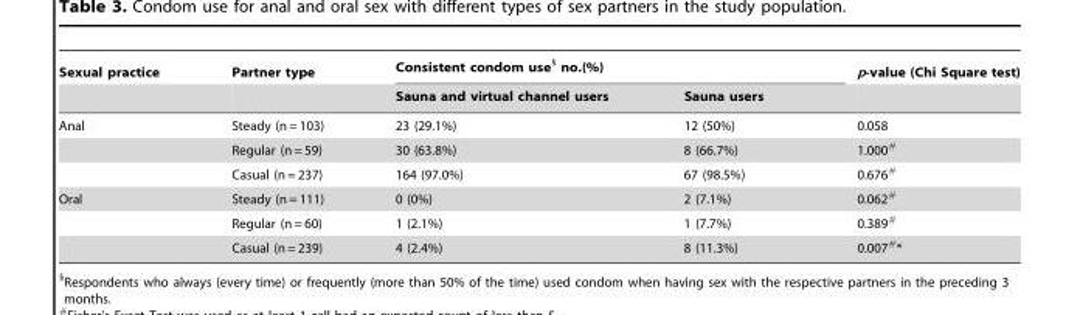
<table><thead><tr><td rowspan="2">Sexual practice</td><td rowspan="2">Partner type</td><td colspan="2">Consistent condom use§ no.(%)</td><td rowspan="2">p-value (Chi Square test)</td></tr><tr><td>Sauna and virtual channel users</td><td>Sauna users</td></tr></thead><tbody><tr><td rowspan="3">Anal</td><td>Steady (n = 103)</td><td>23 (29.1%)</td><td>12 (50%)</td><td>0.058</td></tr><tr><td>Regular (n = 59)</td><td>30 (63.8%)</td><td>8 (66.7%)</td><td>1.000#</td></tr><tr><td>Casual (n = 237)</td><td>164 (97.0%)</td><td>67 (98.5%)</td><td>0.676#</td></tr><tr><td rowspan="3">Oral</td><td>Steady (n = 111)</td><td>0 (0%)</td><td>2 (7.1%)</td><td>0.062#</td></tr><tr><td>Regular (n = 60)</td><td>1 (2.1%)</td><td>1 (7.7%)</td><td>0.389#</td></tr><tr><td>Casual (n = 239)</td><td>4 (2.4%)</td><td>8 (11.3%)</td><td>0.007#*</td></tr></tbody></table>